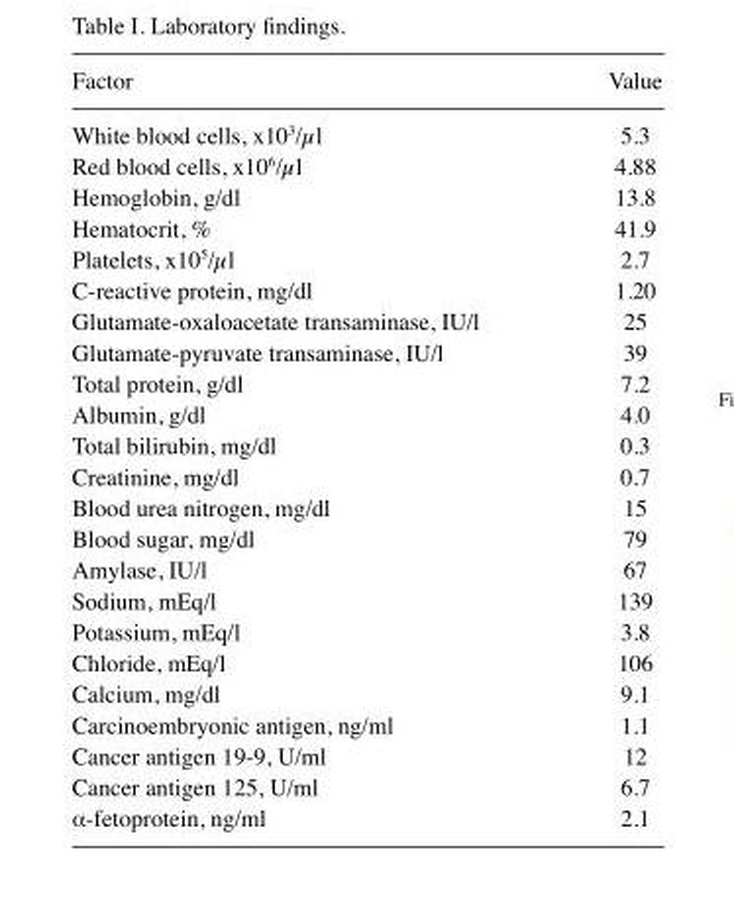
<table><thead><tr><td>Factor</td><td>Value</td></tr></thead><tbody><tr><td>White blood cells, x10<sup>3</sup>/µl</td><td>5.3</td></tr><tr><td>Red blood cells, x10<sup>6</sup>/µl</td><td>4.88</td></tr><tr><td>Hemoglobin, g/dl</td><td>13.8</td></tr><tr><td>Hematocrit, %</td><td>41.9</td></tr><tr><td>Platelets, x10<sup>5</sup>/µl</td><td>2.7</td></tr><tr><td>C-reactive protein, mg/dl</td><td>1.20</td></tr><tr><td>Glutamate‑oxaloacetate transaminase, IU/l</td><td>25</td></tr><tr><td>Glutamate‑pyruvate transaminase, IU/l</td><td>39</td></tr><tr><td>Total protein, g/dl</td><td>7.2</td></tr><tr><td>Albumin, g/dl</td><td>4.0</td></tr><tr><td>Total bilirubin, mg/dl</td><td>0.3</td></tr><tr><td>Creatinine, mg/dl</td><td>0.7</td></tr><tr><td>Blood urea nitrogen, mg/dl</td><td>15</td></tr><tr><td>Blood sugar, mg/dl</td><td>79</td></tr><tr><td>Amylase, IU/l</td><td>67</td></tr><tr><td>Sodium, mEq/l</td><td>139</td></tr><tr><td>Potassium, mEq/l</td><td>3.8</td></tr><tr><td>Chloride, mEq/l</td><td>106</td></tr><tr><td>Calcium, mg/dl</td><td>9.1</td></tr><tr><td>Carcinoembryonic antigen, ng/ml</td><td>1.1</td></tr><tr><td>Cancer antigen 19‑9, U/ml</td><td>12</td></tr><tr><td>Cancer antigen 125, U/ml</td><td>6.7</td></tr><tr><td>α-fetoprotein, ng/ml</td><td>2.1</td></tr></tbody></table>